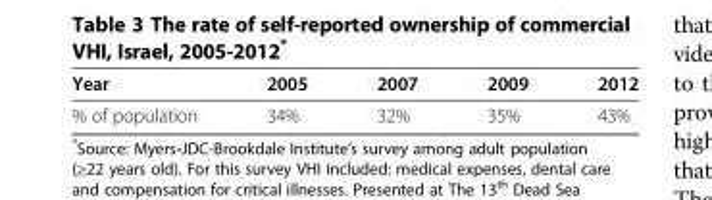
<table><thead><tr><td>Year</td><td>2005</td><td>2007</td><td>2009</td><td>2012</td></tr></thead><tbody><tr><td>% of population</td><td>34%</td><td>32%</td><td>35%</td><td>43%</td></tr></tbody></table>